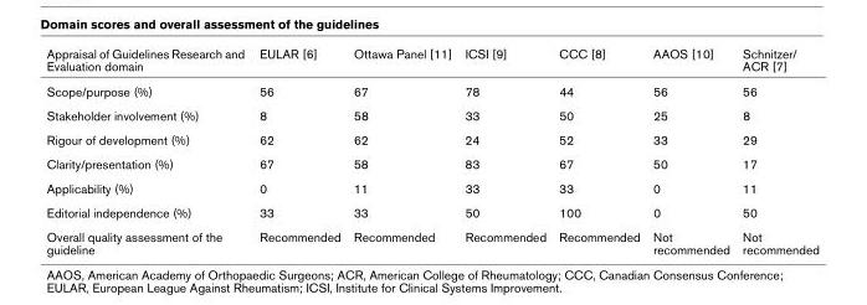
<table><thead><tr><td>Appraisal of Guidelines Research and Evaluation domain</td><td>EULAR [6]</td><td>Ottawa Panel [11]</td><td>ICSI [9]</td><td>CCC [8]</td><td>AAOS [10]</td><td>Schnitzer/ ACR [7]</td></tr></thead><tbody><tr><td>Scope/purpose (%)</td><td>56</td><td>67</td><td>78</td><td>44</td><td>56</td><td>56</td></tr><tr><td>Stakeholder involvement (%)</td><td>8</td><td>58</td><td>33</td><td>50</td><td>25</td><td>8</td></tr><tr><td>Rigour of development (%)</td><td>62</td><td>62</td><td>24</td><td>52</td><td>33</td><td>29</td></tr><tr><td>Clarity/presentation (%)</td><td>67</td><td>58</td><td>83</td><td>67</td><td>50</td><td>17</td></tr><tr><td>Applicability (%)</td><td>0</td><td>11</td><td>33</td><td>33</td><td>0</td><td>11</td></tr><tr><td>Editorial independence (%)</td><td>33</td><td>33</td><td>50</td><td>100</td><td>0</td><td>50</td></tr><tr><td>Overall quality assessment of the guideline</td><td>Recommended</td><td>Recommended</td><td>Recommended</td><td>Recommended</td><td>Not recommended</td><td>Not recommended</td></tr></tbody></table>